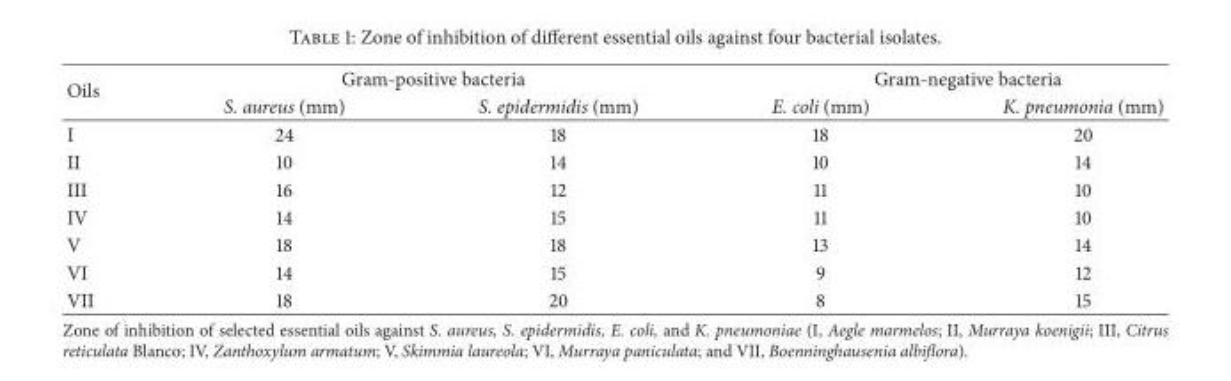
<table><thead><tr><td rowspan="2">Oils</td><td colspan="2">Gram-positive bacteria</td><td colspan="2">Gram-negative bacteria</td></tr><tr><td>S. aureus (mm)</td><td>S. epidermidis (mm)</td><td>E. coli (mm)</td><td>K. pneumonia (mm)</td></tr></thead><tbody><tr><td>I</td><td>24</td><td>18</td><td>18</td><td>20</td></tr><tr><td>II</td><td>10</td><td>14</td><td>10</td><td>14</td></tr><tr><td>III</td><td>16</td><td>12</td><td>11</td><td>10</td></tr><tr><td>IV</td><td>14</td><td>15</td><td>11</td><td>10</td></tr><tr><td>V</td><td>18</td><td>18</td><td>13</td><td>14</td></tr><tr><td>VI</td><td>14</td><td>15</td><td>9</td><td>12</td></tr><tr><td>VII</td><td>18</td><td>20</td><td>8</td><td>15</td></tr></tbody></table>